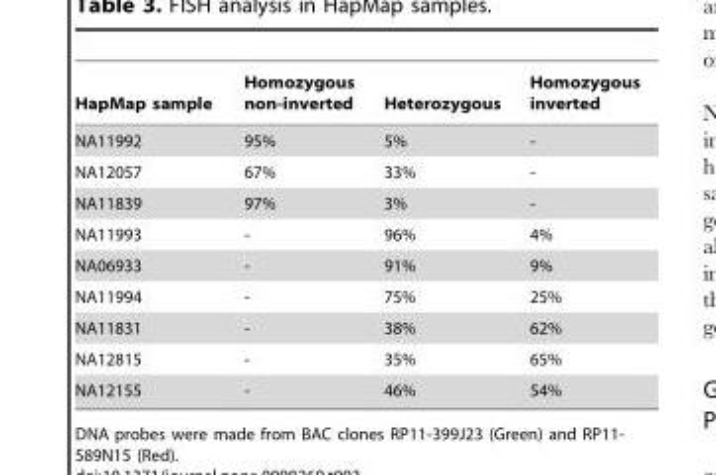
<table><thead><tr><td>HapMap sample</td><td>Homozygous non-inverted</td><td>Heterozygous</td><td>Homozygous inverted</td></tr></thead><tbody><tr><td>NA11992</td><td>95%</td><td>5%</td><td>-</td></tr><tr><td>NA12057</td><td>67%</td><td>33%</td><td>-</td></tr><tr><td>NA11839</td><td>97%</td><td>3%</td><td>-</td></tr><tr><td>NA11993</td><td>-</td><td>96%</td><td>4%</td></tr><tr><td>NA06933</td><td>-</td><td>91%</td><td>9%</td></tr><tr><td>NA11994</td><td>-</td><td>75%</td><td>25%</td></tr><tr><td>NA11831</td><td>-</td><td>38%</td><td>62%</td></tr><tr><td>NA12815</td><td>-</td><td>35%</td><td>65%</td></tr><tr><td>NA12155</td><td>-</td><td>46%</td><td>54%</td></tr></tbody></table>